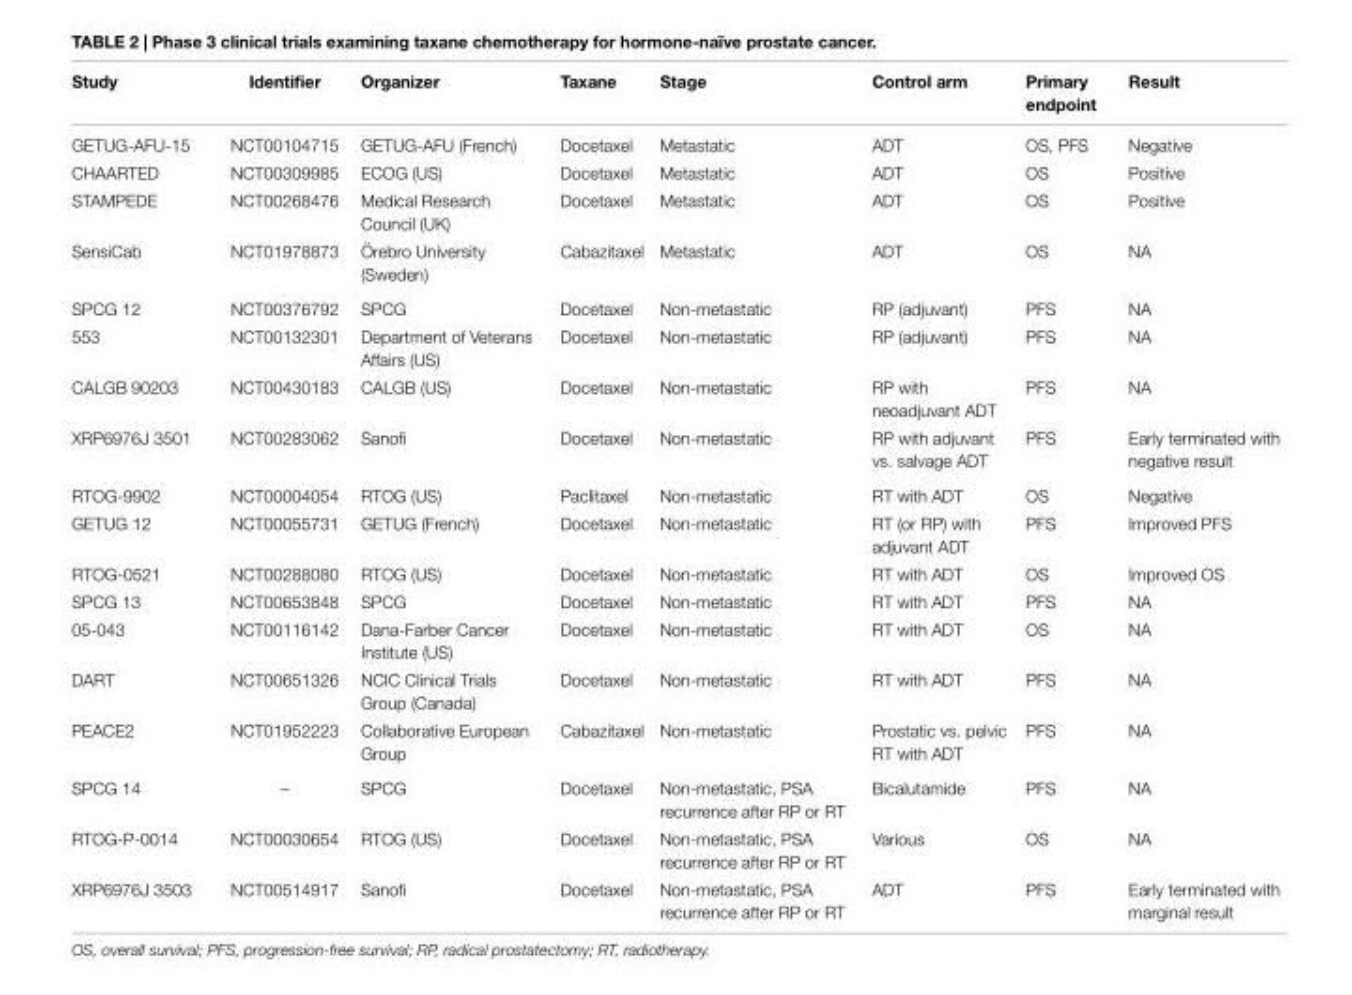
<table><thead><tr><td>Study</td><td>identifier</td><td>Organizer</td><td>Taxane</td><td>Stage</td><td>Control arm</td><td>Primary endpoint</td><td>Result</td></tr></thead><tbody><tr><td>GETUG-AFU-15</td><td>NCT00104715</td><td>GETUG-AFU (French)</td><td>Docetaxel</td><td>Metastatic</td><td>ADT</td><td>OS, PFS</td><td>Negative</td></tr><tr><td>CHAARTED</td><td>NCT00309985</td><td>ECOG (US)</td><td>Docetaxel</td><td>Metastatic</td><td>ADT</td><td>OS</td><td>Positive</td></tr><tr><td>STAMPEDE</td><td>NCT00268476</td><td>Medical Research Council (UK)</td><td>Docetaxel</td><td>Metastatic</td><td>ADT</td><td>OS</td><td>Positive</td></tr><tr><td>SensiCab</td><td>NCT01978873</td><td>Örebro University (Sweden)</td><td>Cabazitaxel</td><td>Metastatic</td><td>ADT</td><td>OS</td><td>NA</td></tr><tr><td>SPCG 12</td><td>NCT00376792</td><td>SPCG</td><td>Docetaxel</td><td>Non-metastatic</td><td>RP (adjuvant)</td><td>PFS</td><td>NA</td></tr><tr><td>553</td><td>NCT00132301</td><td>Department of Veterans Affairs (US)</td><td>Docetaxel</td><td>Non-metastatic</td><td>RP (adjuvant)</td><td>PFS</td><td>NA</td></tr><tr><td>CALGB 90203</td><td>NCT00430183</td><td>CALGB (US)</td><td>Docetaxel</td><td>Non-metastatic</td><td>RP with neoadjuvant ADT</td><td>PFS</td><td>NA</td></tr><tr><td>XRP6976J 3501</td><td>NCT00283062</td><td>Sanofi</td><td>Docetaxel</td><td>Non-metastatic</td><td>RP with adjuvant vs. salvage ADT</td><td>PFS</td><td>Early terminated with negative result</td></tr><tr><td>RTOG-9902</td><td>NCT00004054</td><td>RTOG (US)</td><td>Paclitaxel</td><td>Non-metastatic</td><td>RT with ADT</td><td>OS</td><td>Negative</td></tr><tr><td>GETUG 12</td><td>NCT00055731</td><td>GETUG (French)</td><td>Docetaxel</td><td>Non-metastatic</td><td>RT (or RP) with adjuvant ADT</td><td>PFS</td><td>Improved PFS</td></tr><tr><td>RTOG-0521</td><td>NCT00288080</td><td>RTOG (US)</td><td>Docetaxel</td><td>Non-metastatic</td><td>RT with ADT</td><td>OS</td><td>Improved OS</td></tr><tr><td>SPCG 13</td><td>NCT00653848</td><td>SPCG</td><td>Docetaxel</td><td>Non-metastatic</td><td>RT with ADT</td><td>PFS</td><td>NA</td></tr><tr><td>05-043</td><td>NCT00116142</td><td>Dana-Farber Cancer Institute (US)</td><td>Docetaxel</td><td>Non-metastatic</td><td>RT with ADT</td><td>OS</td><td>NA</td></tr><tr><td>DART</td><td>NCT00651326</td><td>NCIC Clinical Trials Group (Canada)</td><td>Docetaxel</td><td>Non-metastatic</td><td>RT with ADT</td><td>PFS</td><td>NA</td></tr><tr><td>PEACE2</td><td>NCT01952223</td><td>Collaborative European Group</td><td>Cabazitaxel</td><td>Non-metastatic</td><td>Prostatic vs. pelvic RT with ADT</td><td>PFS</td><td>NA</td></tr><tr><td>SPCG 14</td><td>–</td><td>SPCG</td><td>Docetaxel</td><td>Non-metastatic, PSA recurrence after RP or RT</td><td>Bicalutamide</td><td>PFS</td><td>NA</td></tr><tr><td>RTOG-P-0014</td><td>NCT00030654</td><td>RTOG (US)</td><td>Docetaxel</td><td>Non-metastatic, PSA recurrence after RP or RT</td><td>Various</td><td>OS</td><td>NA</td></tr><tr><td>XRP6976J 3503</td><td>NCT00514917</td><td>Sanofi</td><td>Docetaxel</td><td>Non-metastatic, PSA recurrence after RP or RT</td><td>ADT</td><td>PFS</td><td>Early terminated with marginal result</td></tr></tbody></table>